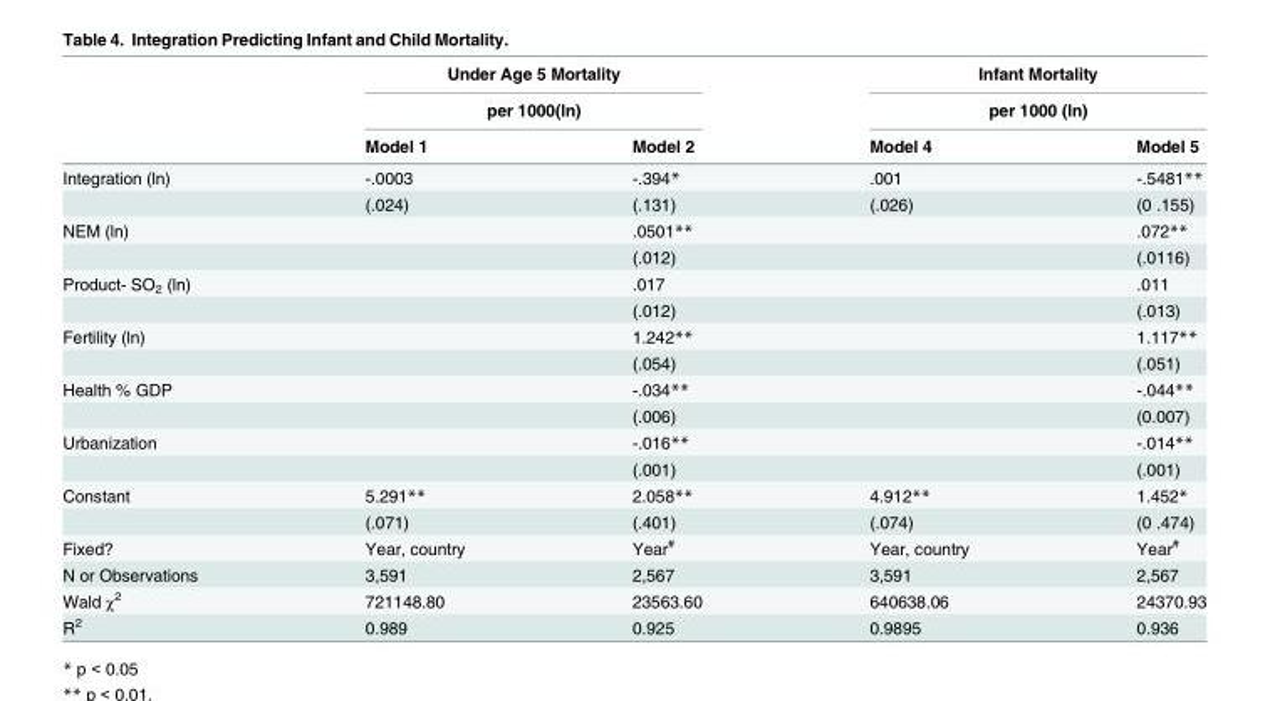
<table><thead><tr><td rowspan="3"></td><td rowspan="2" colspan="2">Under Age 5 Mortality per 1000(ln)</td><td rowspan="2" colspan="2">Infant Mortality per 1000 (ln)</td></tr><tr></tr><tr><td>Model 1</td><td>Model 2</td><td>Model 4</td><td>Model 5</td></tr></thead><tbody><tr><td rowspan="2">Integration (ln)</td><td>-.0003</td><td>-.394*</td><td>.001</td><td>-.5481**</td></tr><tr><td>(.024)</td><td>(.131)</td><td>(.026)</td><td>(0 .155)</td></tr><tr><td rowspan="2">NEM (ln)</td><td></td><td>.0501**</td><td></td><td>.072**</td></tr><tr><td></td><td>(.012)</td><td></td><td>(.0116)</td></tr><tr><td rowspan="2">Product- SO<sub>2</sub> (ln)</td><td></td><td>.017</td><td></td><td>.011</td></tr><tr><td></td><td>(.012)</td><td></td><td>(.013)</td></tr><tr><td rowspan="2">Fertility (ln)</td><td></td><td>1.242**</td><td></td><td>1.117**</td></tr><tr><td></td><td>(.054)</td><td></td><td>(.051)</td></tr><tr><td rowspan="2">Health % GDP</td><td></td><td>-.034**</td><td></td><td>-.044**</td></tr><tr><td></td><td>(.006)</td><td></td><td>(0.007)</td></tr><tr><td rowspan="2">Urbanization</td><td></td><td>-.016**</td><td></td><td>-.014**</td></tr><tr><td></td><td>(.001)</td><td></td><td>(.001)</td></tr><tr><td rowspan="2">Constant</td><td>5.291**</td><td>2.058**</td><td>4.912**</td><td>1.452*</td></tr><tr><td>(.071)</td><td>(.401)</td><td>(.074)</td><td>(0 .474)</td></tr><tr><td>Fixed?</td><td>Year, country</td><td>Year<sup>#</sup></td><td>Year, country</td><td>Year<sup>#</sup></td></tr><tr><td>N or Observations</td><td>3,591</td><td>2,567</td><td>3,591</td><td>2,567</td></tr><tr><td>Wald χ<sup>2</sup></td><td>721148.80</td><td>23563.60</td><td>640638.06</td><td>24370.93</td></tr><tr><td>R<sup>2</sup></td><td>0.989</td><td>0.925</td><td>0.9895</td><td>0.936</td></tr></tbody></table>